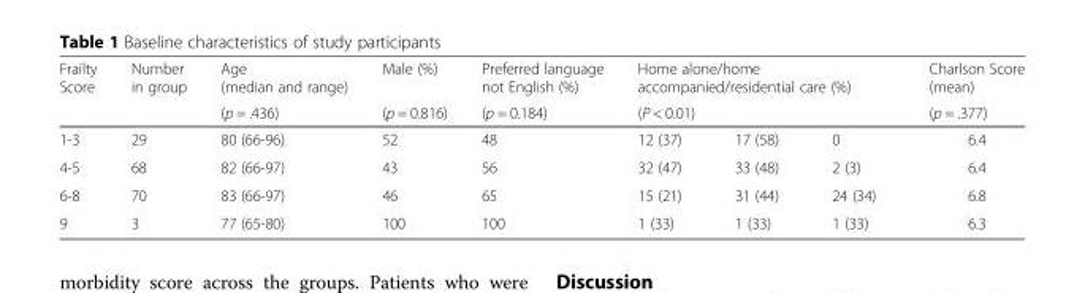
<table><thead><tr><td rowspan="3">Frailty Score 1-3</td><td rowspan="3">Number in group 29</td><td rowspan="3">Age (median and range) (p = .436) 80 (66-96)</td><td rowspan="3">Male (%) (p = 0.816) 52</td><td rowspan="3">Preferred language not English (%) (p = 0.184) 48</td><td rowspan="2" colspan="3">Home alone/home accompanied/residential care (%) (P &lt; 0.01)</td><td rowspan="3">Charlson Score (mean) (p = .377) 6.4</td></tr><tr></tr><tr><td>12 (37)</td><td>17 (58)</td><td>0</td></tr></thead><tbody><tr><td>4-5</td><td>68</td><td>82 (66-97)</td><td>43</td><td>56</td><td>32 (47)</td><td>33 (48)</td><td>2 (3)</td><td>6.4</td></tr><tr><td>6-8</td><td>70</td><td>83 (66-97)</td><td>46</td><td>65</td><td>15 (21)</td><td>31 (44)</td><td>24 (34)</td><td>6.8</td></tr><tr><td>9</td><td>3</td><td>77 (65-80)</td><td>100</td><td>100</td><td>1 (33)</td><td>1 (33)</td><td>1 (33)</td><td>6.3</td></tr></tbody></table>